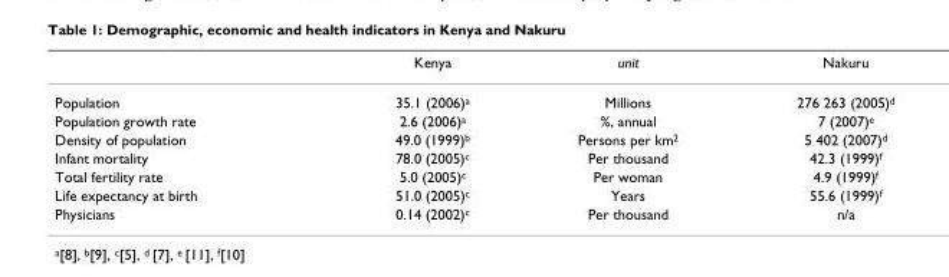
<table><thead><tr><td></td><td>Kenya</td><td>unit</td><td>Nakuru</td></tr></thead><tbody><tr><td>Population</td><td>35.1 (2006)<sup>a</sup></td><td>Millions</td><td>276 263 (2005)<sup>d</sup></td></tr><tr><td>Population growth rate</td><td>2.6 (2006)<sup>a</sup></td><td>%, annual</td><td>7 (2007)<sup>e</sup></td></tr><tr><td>Density of population</td><td>49.0 (1999)<sup>b</sup></td><td>Persons per km<sup>2</sup></td><td>5 402 (2007)<sup>d</sup></td></tr><tr><td>Infant mortality</td><td>78.0 (2005)<sup>c</sup></td><td>Per thousand</td><td>42.3 (1999)<sup>f</sup></td></tr><tr><td>Total fertility rate</td><td>5.0 (2005)<sup>c</sup></td><td>Per woman</td><td>4.9 (1999)<sup>f</sup></td></tr><tr><td>Life expectancy at birth</td><td>51.0 (2005)<sup>c</sup></td><td>Years</td><td>55.6 (1999)<sup>f</sup></td></tr><tr><td>Physicians</td><td>0.14 (2002)<sup>c</sup></td><td>Per thousand</td><td>n/a</td></tr></tbody></table>